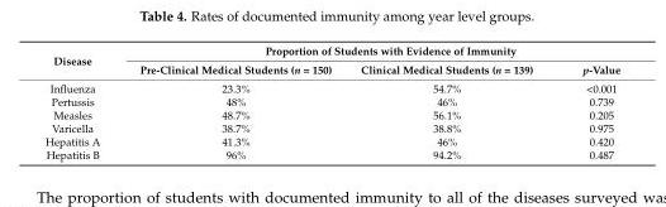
<table><thead><tr><td rowspan="2">Disease</td><td colspan="3">Proportion of Students with Evidence of Immunity</td></tr><tr><td>Pre-Clinical Medical Students (n = 150)</td><td>Clinical Medical Students (n = 139)</td><td>p-Value</td></tr></thead><tbody><tr><td>Influenza</td><td>23.3%</td><td>54.7%</td><td>&lt;0.001</td></tr><tr><td>Pertussis</td><td>48%</td><td>46%</td><td>0.739</td></tr><tr><td>Measles</td><td>48.7%</td><td>56.1%</td><td>0.205</td></tr><tr><td>Varicella</td><td>38.7%</td><td>38.8%</td><td>0.975</td></tr><tr><td>Hepatitis A</td><td>41.3%</td><td>46%</td><td>0.420</td></tr><tr><td>Hepatitis B</td><td>96%</td><td>94.2%</td><td>0.487</td></tr></tbody></table>